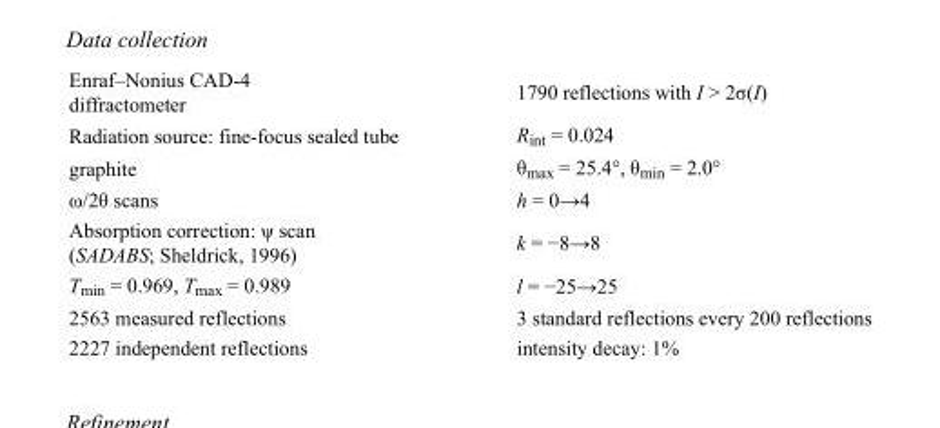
<table><tbody><tr><td>Enraf–Nonius CAD-4 diffractometer</td><td>1790 reflections with I &gt; 2σ(I)</td></tr><tr><td>Radiation source: fine-focus sealed tube</td><td>R<sub>int</sub> = 0.024</td></tr><tr><td>graphite</td><td>θ<sub>max</sub> = 25.4°, θ<sub>min</sub> = 2.0°</td></tr><tr><td>ω/2θ scans</td><td>h = 0→4</td></tr><tr><td>Absorption correction: ψ scan (SADABS; Sheldrick, 1996)</td><td>k = −8→8</td></tr><tr><td>T<sub>min</sub> = 0.969, T<sub>max</sub> = 0.989</td><td>l = −25→25</td></tr><tr><td>2563 measured reflections</td><td>3 standard reflections every 200 reflections</td></tr><tr><td>2227 independent reflections</td><td>intensity decay: 1%</td></tr></tbody></table>